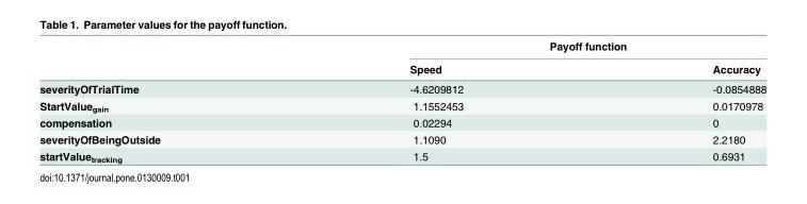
<table><thead><tr><td rowspan="2"></td><td colspan="2">Payoff function</td></tr><tr><td>Speed</td><td>Accuracy</td></tr></thead><tbody><tr><td>severityOfTrialTime</td><td>-4.6209812</td><td>-0.0854888</td></tr><tr><td>StartValue<sub>gain</sub></td><td>1.1552453</td><td>0.0170978</td></tr><tr><td>compensation</td><td>0.02294</td><td>0</td></tr><tr><td>severityOfBeingOutside</td><td>1.1090</td><td>2.2180</td></tr><tr><td>startValue<sub>tracking</sub></td><td>1.5</td><td>0.6931</td></tr></tbody></table>